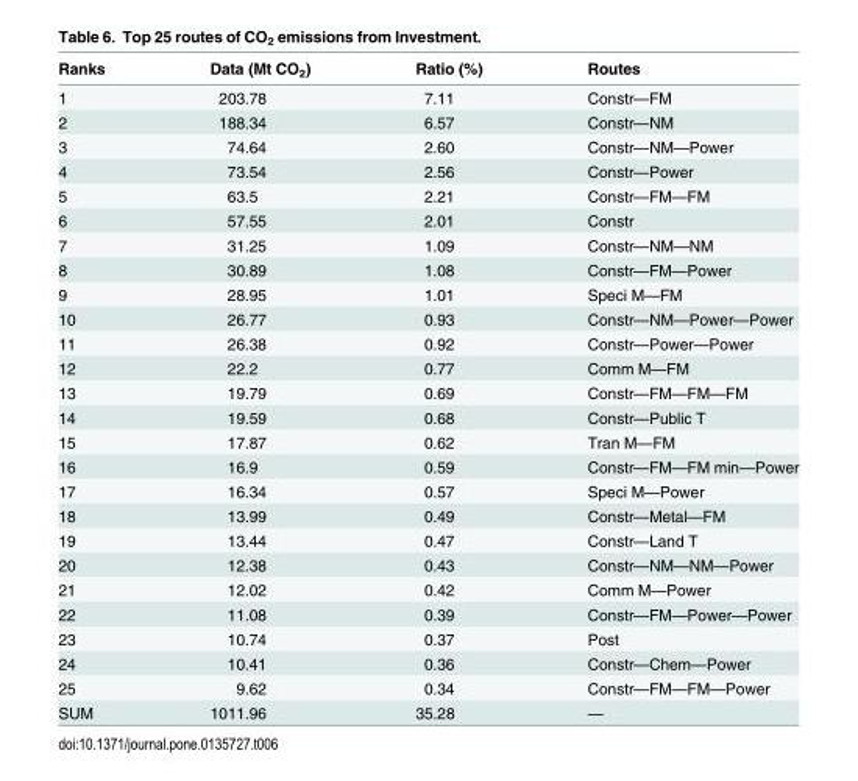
<table><thead><tr><td>Ranks</td><td>Data (Mt CO<sub>2</sub>)</td><td>Ratio (%)</td><td>Routes</td></tr></thead><tbody><tr><td>1</td><td>203.78</td><td>7.11</td><td>Constr—FM</td></tr><tr><td>2</td><td>188.34</td><td>6.57</td><td>Constr—NM</td></tr><tr><td>3</td><td>74.64</td><td>2.60</td><td>Constr—NM—Power</td></tr><tr><td>4</td><td>73.54</td><td>2.56</td><td>Constr—Power</td></tr><tr><td>5</td><td>63.5</td><td>2.21</td><td>Constr—FM—FM</td></tr><tr><td>6</td><td>57.55</td><td>2.01</td><td>Constr</td></tr><tr><td>7</td><td>31.25</td><td>1.09</td><td>Constr—NM—NM</td></tr><tr><td>8</td><td>30.89</td><td>1.08</td><td>Constr—FM—Power</td></tr><tr><td>9</td><td>28.95</td><td>1.01</td><td>Speci M—FM</td></tr><tr><td>10</td><td>26.77</td><td>0.93</td><td>Constr—NM—Power—Power</td></tr><tr><td>11</td><td>26.38</td><td>0.92</td><td>Constr—Power—Power</td></tr><tr><td>12</td><td>22.2</td><td>0.77</td><td>Comm M—FM</td></tr><tr><td>13</td><td>19.79</td><td>0.69</td><td>Constr—FM—FM—FM</td></tr><tr><td>14</td><td>19.59</td><td>0.68</td><td>Constr—Public T</td></tr><tr><td>15</td><td>17.87</td><td>0.62</td><td>Tran M—FM</td></tr><tr><td>16</td><td>16.9</td><td>0.59</td><td>Constr—FM—FM min—Power</td></tr><tr><td>17</td><td>16.34</td><td>0.57</td><td>Speci M—Power</td></tr><tr><td>18</td><td>13.99</td><td>0.49</td><td>Constr—Metal—FM</td></tr><tr><td>19</td><td>13.44</td><td>0.47</td><td>Constr—Land T</td></tr><tr><td>20</td><td>12.38</td><td>0.43</td><td>Constr—NM—NM—Power</td></tr><tr><td>21</td><td>12.02</td><td>0.42</td><td>Comm M—Power</td></tr><tr><td>22</td><td>11.08</td><td>0.39</td><td>Constr—FM—Power—Power</td></tr><tr><td>23</td><td>10.74</td><td>0.37</td><td>Post</td></tr><tr><td>24</td><td>10.41</td><td>0.36</td><td>Constr—Chem—Power</td></tr><tr><td>25</td><td>9.62</td><td>0.34</td><td>Constr—FM—FM—Power</td></tr><tr><td>SUM</td><td>1011.96</td><td>35.28</td><td>—</td></tr></tbody></table>